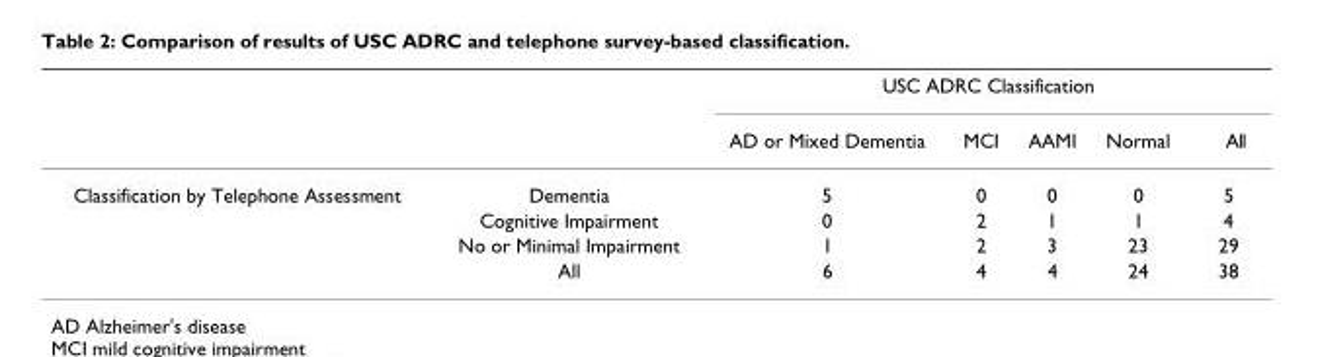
<table><thead><tr><td rowspan="2"></td><td rowspan="2"></td><td colspan="5">USC ADRC Classification</td></tr><tr><td>AD or Mixed Dementia</td><td>MCI</td><td>AAMI</td><td>Normal</td><td>All</td></tr></thead><tbody><tr><td rowspan="4">Classification by Telephone Assessment</td><td>Dementia</td><td>5</td><td>0</td><td>0</td><td>0</td><td>5</td></tr><tr><td>Cognitive Impairment</td><td>0</td><td>2</td><td>1</td><td>1</td><td>4</td></tr><tr><td>No or Minimal Impairment</td><td>1</td><td>2</td><td>3</td><td>23</td><td>29</td></tr><tr><td>All</td><td>6</td><td>4</td><td>4</td><td>24</td><td>38</td></tr></tbody></table>